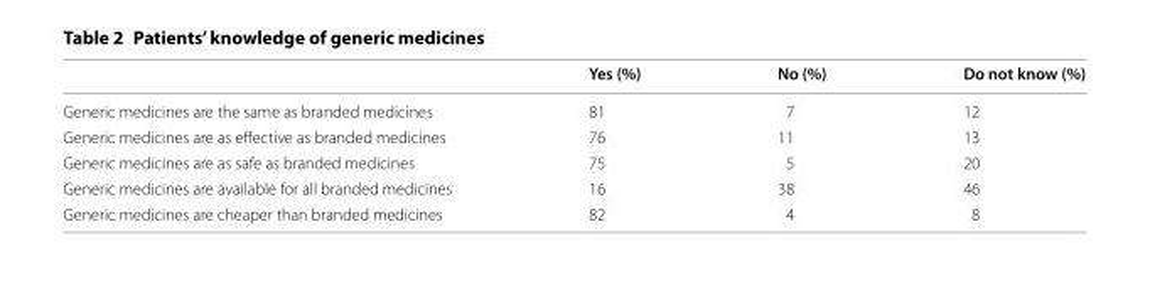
<table><thead><tr><td></td><td>Yes (%)</td><td>No (%)</td><td>Do not know (%)</td></tr></thead><tbody><tr><td>Generic medicines are the same as branded medicines</td><td>81</td><td>7</td><td>12</td></tr><tr><td>Generic medicines are as effective as branded medicines</td><td>76</td><td>11</td><td>13</td></tr><tr><td>Generic medicines are as safe as branded medicines</td><td>75</td><td>5</td><td>20</td></tr><tr><td>Generic medicines are available for all branded medicines</td><td>16</td><td>38</td><td>46</td></tr><tr><td>Generic medicines are cheaper than branded medicines</td><td>82</td><td>4</td><td>8</td></tr></tbody></table>